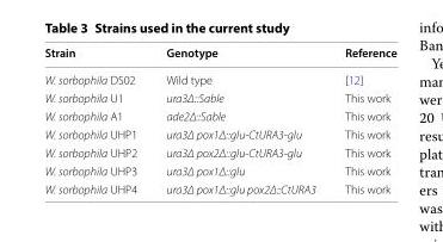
<table><thead><tr><td>Strain</td><td>Genotype</td><td>Reference</td></tr></thead><tbody><tr><td>W. sorbophila DS02</td><td>Wild type</td><td>[12]</td></tr><tr><td>W. sorbophila U1</td><td>ura3Δ::Sable</td><td>This work</td></tr><tr><td>W. sorbophila A1</td><td>ade2Δ::Sable</td><td>This work</td></tr><tr><td>W. sorbophila UHP1</td><td>ura3Δ pox1Δ::glu‑CtURA3‑glu</td><td>This work</td></tr><tr><td>W. sorbophila UHP2</td><td>ura3Δ pox2Δ::glu‑CtURA3‑glu</td><td>This work</td></tr><tr><td>W. sorbophila UHP3</td><td>ura3Δ pox1Δ::glu</td><td>This work</td></tr><tr><td>W. sorbophila UHP4</td><td>ura3Δ pox1Δ::glu pox2Δ::CtURA3</td><td>This work</td></tr></tbody></table>